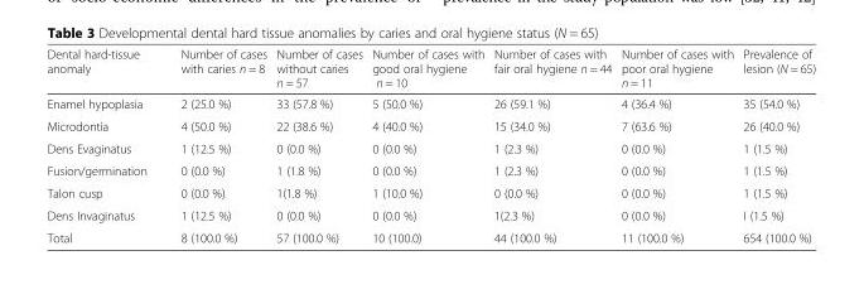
<table><thead><tr><td>Dental hard-tissue anomaly</td><td>Number of cases with caries n = 8</td><td>Number of cases without caries n = 57</td><td>Number of cases with good oral hygiene n = 10</td><td>Number of cases with fair oral hygiene n = 44</td><td>Number of cases with poor oral hygiene n = 11</td><td>Prevalence of lesion (N = 65)</td></tr></thead><tbody><tr><td>Enamel hypoplasia</td><td>2 (25.0 %)</td><td>33 (57.8 %)</td><td>5 (50.0 %)</td><td>26 (59.1 %)</td><td>4 (36.4 %)</td><td>35 (54.0 %)</td></tr><tr><td>Microdontia</td><td>4 (50.0 %)</td><td>22 (38.6 %)</td><td>4 (40.0 %)</td><td>15 (34.0 %)</td><td>7 (63.6 %)</td><td>26 (40.0 %)</td></tr><tr><td>Dens Evaginatus</td><td>1 (12.5 %)</td><td>0 (0.0 %)</td><td>0 (0.0 %)</td><td>1 (2.3 %)</td><td>0 (0.0 %)</td><td>1 (1.5 %)</td></tr><tr><td>Fusion/germination</td><td>0 (0.0 %)</td><td>1 (1.8 %)</td><td>0 (0.0 %)</td><td>1 (2.3 %)</td><td>0 (0.0 %)</td><td>1 (1.5 %)</td></tr><tr><td>Talon cusp</td><td>0 (0.0 %)</td><td>1(1.8 %)</td><td>1 (10.0 %)</td><td>0 (0.0 %)</td><td>0 (0.0 %)</td><td>1 (1.5 %)</td></tr><tr><td>Dens Invaginatus</td><td>1 (12.5 %)</td><td>0 (0.0 %)</td><td>0 (0.0 %)</td><td>1(2.3 %)</td><td>0 (0.0 %)</td><td>I (1.5 %)</td></tr><tr><td>Total</td><td>8 (100.0 %)</td><td>57 (100.0 %)</td><td>10 (100.0)</td><td>44 (100.0 %)</td><td>11 (100.0 %)</td><td>654 (100.0 %)</td></tr></tbody></table>